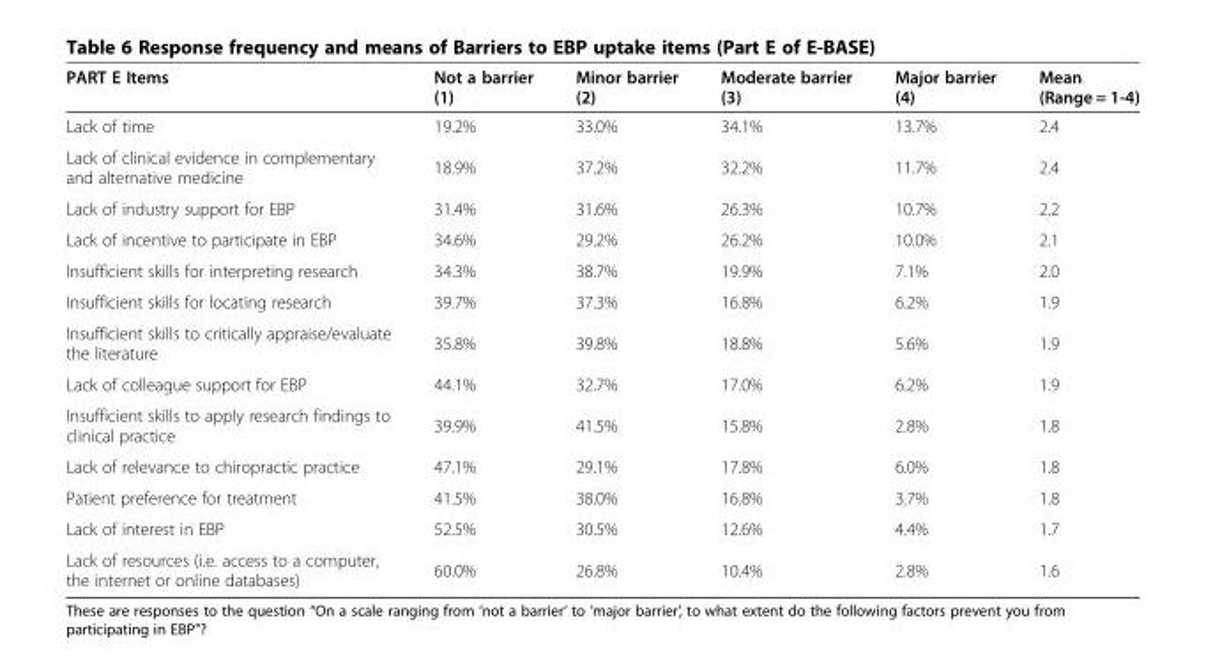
<table><thead><tr><td>PART E Items</td><td>Not a barrier (1)</td><td>Minor barrier (2)</td><td>Moderate barrier (3)</td><td>Major barrier (4)</td><td>Mean (Range = 1-4)</td></tr></thead><tbody><tr><td>Lack of time</td><td>19.2%</td><td>33.0%</td><td>34.1%</td><td>13.7%</td><td>2.4</td></tr><tr><td>Lack of clinical evidence in complementary and alternative medicine</td><td>18.9%</td><td>37.2%</td><td>32.2%</td><td>11.7%</td><td>2.4</td></tr><tr><td>Lack of industry support for EBP</td><td>31.4%</td><td>31.6%</td><td>26.3%</td><td>10.7%</td><td>2.2</td></tr><tr><td>Lack of incentive to participate in EBP</td><td>34.6%</td><td>29.2%</td><td>26.2%</td><td>10.0%</td><td>2.1</td></tr><tr><td>Insufficient skills for interpreting research</td><td>34.3%</td><td>38.7%</td><td>19.9%</td><td>7.1%</td><td>2.0</td></tr><tr><td>Insufficient skills for locating research</td><td>39.7%</td><td>37.3%</td><td>16.8%</td><td>6.2%</td><td>1.9</td></tr><tr><td>Insufficient skills to critically appraise/evaluate the literature</td><td>35.8%</td><td>39.8%</td><td>18.8%</td><td>5.6%</td><td>1.9</td></tr><tr><td>Lack of colleague support for EBP</td><td>44.1%</td><td>32.7%</td><td>17.0%</td><td>6.2%</td><td>1.9</td></tr><tr><td>Insufficient skills to apply research findings to clinical practice</td><td>39.9%</td><td>41.5%</td><td>15.8%</td><td>2.8%</td><td>1.8</td></tr><tr><td>Lack of relevance to chiropractic practice</td><td>47.1%</td><td>29.1%</td><td>17.8%</td><td>6.0%</td><td>1.8</td></tr><tr><td>Patient preference for treatment</td><td>41.5%</td><td>38.0%</td><td>16.8%</td><td>3.7%</td><td>1.8</td></tr><tr><td>Lack of interest in EBP</td><td>52.5%</td><td>30.5%</td><td>12.6%</td><td>4.4%</td><td>1.7</td></tr><tr><td>Lack of resources (i.e. access to a computer, the internet or online databases)</td><td>60.0%</td><td>26.8%</td><td>10.4%</td><td>2.8%</td><td>1.6</td></tr></tbody></table>